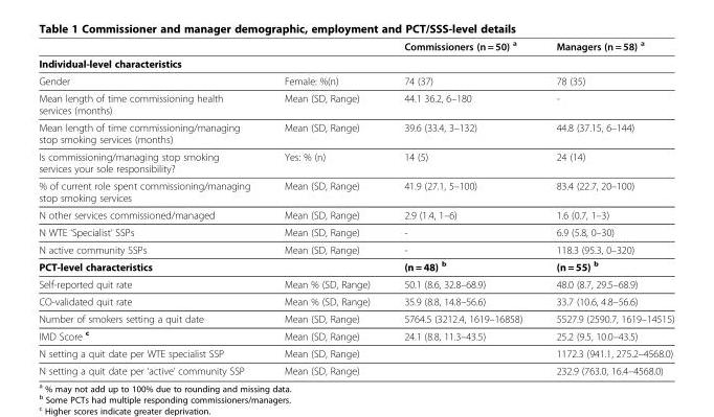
<table><thead><tr><td></td><td></td><td>Commissioners (n = 50) <sup>a</sup></td><td>Managers (n = 58) <sup>a</sup></td></tr></thead><tbody><tr><td colspan="4">Individual-level characteristics</td></tr><tr><td>Gender</td><td>Female: %(n)</td><td>74 (37)</td><td>78 (35)</td></tr><tr><td>Mean length of time commissioning health services (months)</td><td>Mean (SD, Range)</td><td>44.1 36.2, 6–180</td><td>-</td></tr><tr><td>Mean length of time commissioning/managing stop smoking services (months)</td><td>Mean (SD, Range)</td><td>39.6 (33.4, 3–132)</td><td>44.8 (37.15, 6–144)</td></tr><tr><td>Is commissioning/managing stop smoking services your sole responsibility?</td><td>Yes: % (n)</td><td>14 (5)</td><td>24 (14)</td></tr><tr><td>% of current role spent commissioning/managing stop smoking services</td><td>Mean (SD, Range)</td><td>41.9 (27.1, 5–100)</td><td>83.4 (22.7, 20–100)</td></tr><tr><td>N other services commissioned/managed</td><td>Mean (SD, Range)</td><td>2.9 (1.4, 1–6)</td><td>1.6 (0.7, 1–3)</td></tr><tr><td>N WTE ‘Specialist’ SSPs</td><td>Mean (SD, Range)</td><td>-</td><td>6.9 (5.8, 0–30)</td></tr><tr><td>N active community SSPs</td><td>Mean (SD, Range)</td><td>-</td><td>118.3 (95.3, 0–320)</td></tr><tr><td colspan="2">PCT-level characteristics</td><td>(n = 48) <sup>b</sup></td><td>(n = 55) <sup>b</sup></td></tr><tr><td>Self-reported quit rate</td><td>Mean % (SD, Range)</td><td>50.1 (8.6, 32.8–68.9)</td><td>48.0 (8.7, 29.5–68.9)</td></tr><tr><td>CO-validated quit rate</td><td>Mean % (SD, Range)</td><td>35.9 (8.8, 14.8–56.6)</td><td>33.7 (10.6, 4.8–56.6)</td></tr><tr><td>Number of smokers setting a quit date</td><td>Mean (SD, Range)</td><td>5764.5 (3212.4, 1619–16858)</td><td>5527.9 (2590.7, 1619–14515)</td></tr><tr><td>IMD Score <sup>c</sup></td><td>Mean (SD, Range)</td><td>24.1 (8.8, 11.3–43.5)</td><td>25.2 (9.5, 10.0–43.5)</td></tr><tr><td>N setting a quit date per WTE specialist SSP</td><td>Mean (SD, Range)</td><td></td><td>1172.3 (941.1, 275.2–4568.0)</td></tr><tr><td>N setting a quit date per ‘active’ community SSP</td><td>Mean (SD, Range)</td><td></td><td>232.9 (763.0, 16.4–4568.0)</td></tr></tbody></table>